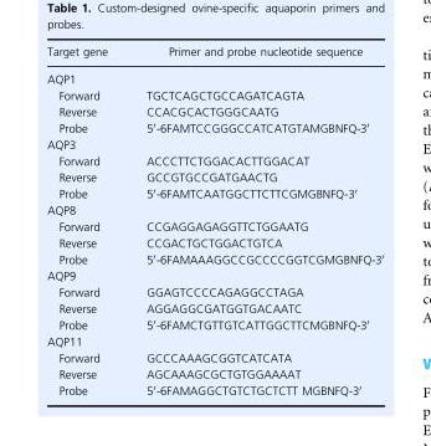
<table><thead><tr><td>Target gene</td><td>Primer and probe nucleotide sequence</td></tr></thead><tbody><tr><td colspan="2">AQP1</td></tr><tr><td>Forward</td><td>TGCTCAGCTGCCAGATCAGTA</td></tr><tr><td>Reverse</td><td>CCACGCACTGGGCAATG</td></tr><tr><td>Probe</td><td>5′-6FAMTCCGGGCCATCATGTAMGBNFQ-3′</td></tr><tr><td colspan="2">AQP3</td></tr><tr><td>Forward</td><td>ACCCTTCTGGACACTTGGACAT</td></tr><tr><td>Reverse</td><td>GCCGTGCCGATGAACTG</td></tr><tr><td>Probe</td><td>5′-6FAMTCAATGGCTTCTTCGMGBNFQ-3′</td></tr><tr><td colspan="2">AQP8</td></tr><tr><td>Forward</td><td>CCGAGGAGAGGTTCTGGAATG</td></tr><tr><td>Reverse</td><td>CCGACTGCTGGACTGTCA</td></tr><tr><td>Probe</td><td>5′-6FAMAAAGGCCGCCCCGGTCGMGBNFQ-3′</td></tr><tr><td colspan="2">AQP9</td></tr><tr><td>Forward</td><td>GGAGTCCCCAGAGGCCTAGA</td></tr><tr><td>Reverse</td><td>AGGAGGCGATGGTGACAATC</td></tr><tr><td>Probe</td><td>5′-6FAMCTGTTGTCATTGGCTTCMGBNFQ-3′</td></tr><tr><td colspan="2">AQP11</td></tr><tr><td>Forward</td><td>GCCCAAAGCGGTCATCATA</td></tr><tr><td>Reverse</td><td>AGCAAAGCGCTGTGGAAAAT</td></tr><tr><td>Probe</td><td>5′-6FAMAGGCTGTCTGCTCTT MGBNFQ-3′</td></tr></tbody></table>